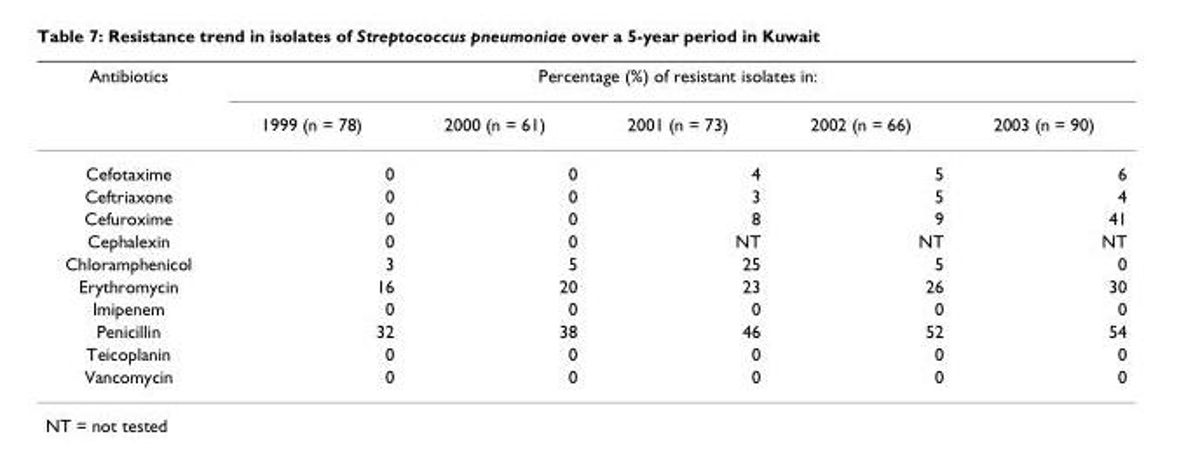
<table><thead><tr><td rowspan="2">Antibiotics</td><td colspan="5">Percentage (%) of resistant isolates in:</td></tr><tr><td>1999 (n = 78)</td><td>2000 (n = 61)</td><td>2001 (n = 73)</td><td>2002 (n = 66)</td><td>2003 (n = 90)</td></tr></thead><tbody><tr><td>Cefotaxime</td><td>0</td><td>0</td><td>4</td><td>5</td><td>6</td></tr><tr><td>Ceftriaxone</td><td>0</td><td>0</td><td>3</td><td>5</td><td>4</td></tr><tr><td>Cefuroxime</td><td>0</td><td>0</td><td>8</td><td>9</td><td>41</td></tr><tr><td>Cephalexin</td><td>0</td><td>0</td><td>NT</td><td>NT</td><td>NT</td></tr><tr><td>Chloramphenicol</td><td>3</td><td>5</td><td>25</td><td>5</td><td>0</td></tr><tr><td>Erythromycin</td><td>16</td><td>20</td><td>23</td><td>26</td><td>30</td></tr><tr><td>Imipenem</td><td>0</td><td>0</td><td>0</td><td>0</td><td>0</td></tr><tr><td>Penicillin</td><td>32</td><td>38</td><td>46</td><td>52</td><td>54</td></tr><tr><td>Teicoplanin</td><td>0</td><td>0</td><td>0</td><td>0</td><td>0</td></tr><tr><td>Vancomycin</td><td>0</td><td>0</td><td>0</td><td>0</td><td>0</td></tr></tbody></table>